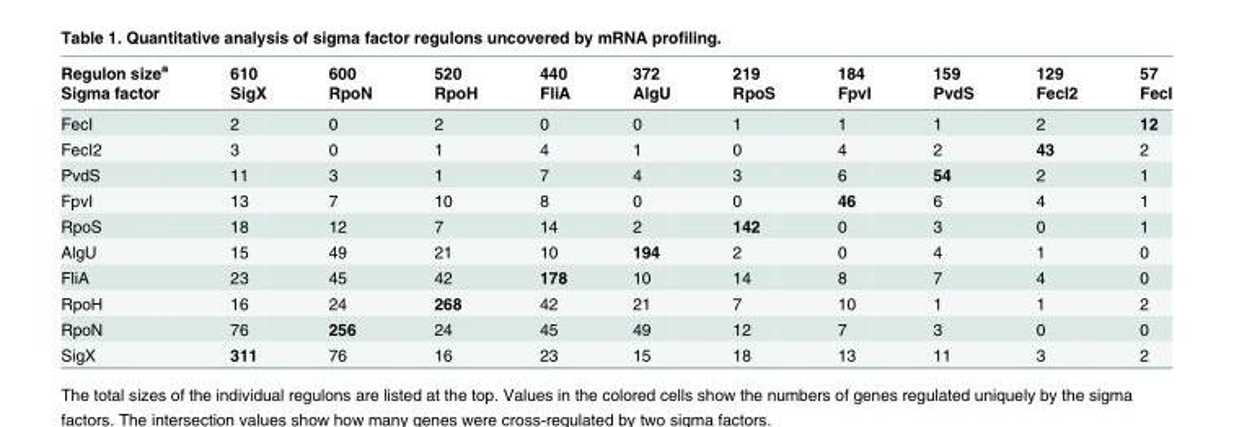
<table><thead><tr><td rowspan="2">Regulon size<sup>a</sup> Sigma factor</td><td rowspan="2">610 SigX</td><td rowspan="2">600 RpoN</td><td rowspan="2">520 RpoH</td><td rowspan="2">440 FliA</td><td rowspan="2">372 AlgU</td><td rowspan="2">219 RpoS</td><td rowspan="2">184 FpvI</td><td rowspan="2">159 PvdS</td><td rowspan="2">129 FecI2</td><td rowspan="2">57 FecI</td></tr><tr></tr></thead><tbody><tr><td>FecI</td><td>2</td><td>0</td><td>2</td><td>0</td><td>0</td><td>1</td><td>1</td><td>1</td><td>2</td><td>12</td></tr><tr><td>FecI2</td><td>3</td><td>0</td><td>1</td><td>4</td><td>1</td><td>0</td><td>4</td><td>2</td><td>43</td><td>2</td></tr><tr><td>PvdS</td><td>11</td><td>3</td><td>1</td><td>7</td><td>4</td><td>3</td><td>6</td><td>54</td><td>2</td><td>1</td></tr><tr><td>FpvI</td><td>13</td><td>7</td><td>10</td><td>8</td><td>0</td><td>0</td><td>46</td><td>6</td><td>4</td><td>1</td></tr><tr><td>RpoS</td><td>18</td><td>12</td><td>7</td><td>14</td><td>2</td><td>142</td><td>0</td><td>3</td><td>0</td><td>1</td></tr><tr><td>AlgU</td><td>15</td><td>49</td><td>21</td><td>10</td><td>194</td><td>2</td><td>0</td><td>4</td><td>1</td><td>0</td></tr><tr><td>FliA</td><td>23</td><td>45</td><td>42</td><td>178</td><td>10</td><td>14</td><td>8</td><td>7</td><td>4</td><td>0</td></tr><tr><td>RpoH</td><td>16</td><td>24</td><td>268</td><td>42</td><td>21</td><td>7</td><td>10</td><td>1</td><td>1</td><td>2</td></tr><tr><td>RpoN</td><td>76</td><td>256</td><td>24</td><td>45</td><td>49</td><td>12</td><td>7</td><td>3</td><td>0</td><td>0</td></tr><tr><td>SigX</td><td>311</td><td>76</td><td>16</td><td>23</td><td>15</td><td>18</td><td>13</td><td>11</td><td>3</td><td>2</td></tr></tbody></table>